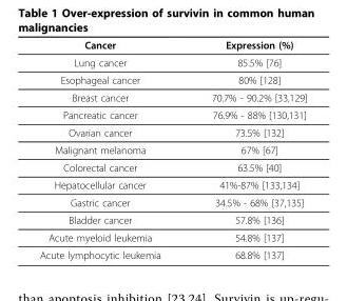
<table><thead><tr><td>Cancer</td><td>Expression (%)</td></tr></thead><tbody><tr><td>Lung cancer</td><td>85.5% [76]</td></tr><tr><td>Esophageal cancer</td><td>80% [128]</td></tr><tr><td>Breast cancer</td><td>70.7% - 90.2% [33,129]</td></tr><tr><td>Pancreatic cancer</td><td>76.9% - 88% [130,131]</td></tr><tr><td>Ovarian cancer</td><td>73.5% [132]</td></tr><tr><td>Malignant melanoma</td><td>67% [67]</td></tr><tr><td>Colorectal cancer</td><td>63.5% [40]</td></tr><tr><td>Hepatocellular cancer</td><td>41%-87% [133,134]</td></tr><tr><td>Gastric cancer</td><td>34.5% - 68% [37,135]</td></tr><tr><td>Bladder cancer</td><td>57.8% [136]</td></tr><tr><td>Acute myeloid leukemia</td><td>54.8% [137]</td></tr><tr><td>Acute lymphocytic leukemia</td><td>68.8% [137]</td></tr></tbody></table>